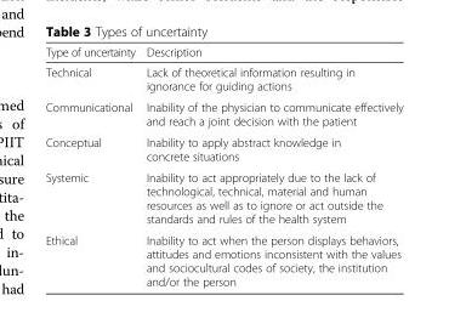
<table><thead><tr><td>Type of uncertainty</td><td>Description</td></tr></thead><tbody><tr><td>Technical</td><td>Lack of theoretical information resulting in ignorance for guiding actions</td></tr><tr><td>Communicational</td><td>Inability of the physician to communicate effectively and reach a joint decision with the patient</td></tr><tr><td>Conceptual</td><td>Inability to apply abstract knowledge in concrete situations</td></tr><tr><td>Systemic</td><td>Inability to act appropriately due to the lack of technological, technical, material and human resources as well as to ignore or act outside the standards and rules of the health system</td></tr><tr><td>Ethical</td><td>Inability to act when the person displays behaviors, attitudes and emotions inconsistent with the values and sociocultural codes of society, the institution and/or the person</td></tr></tbody></table>